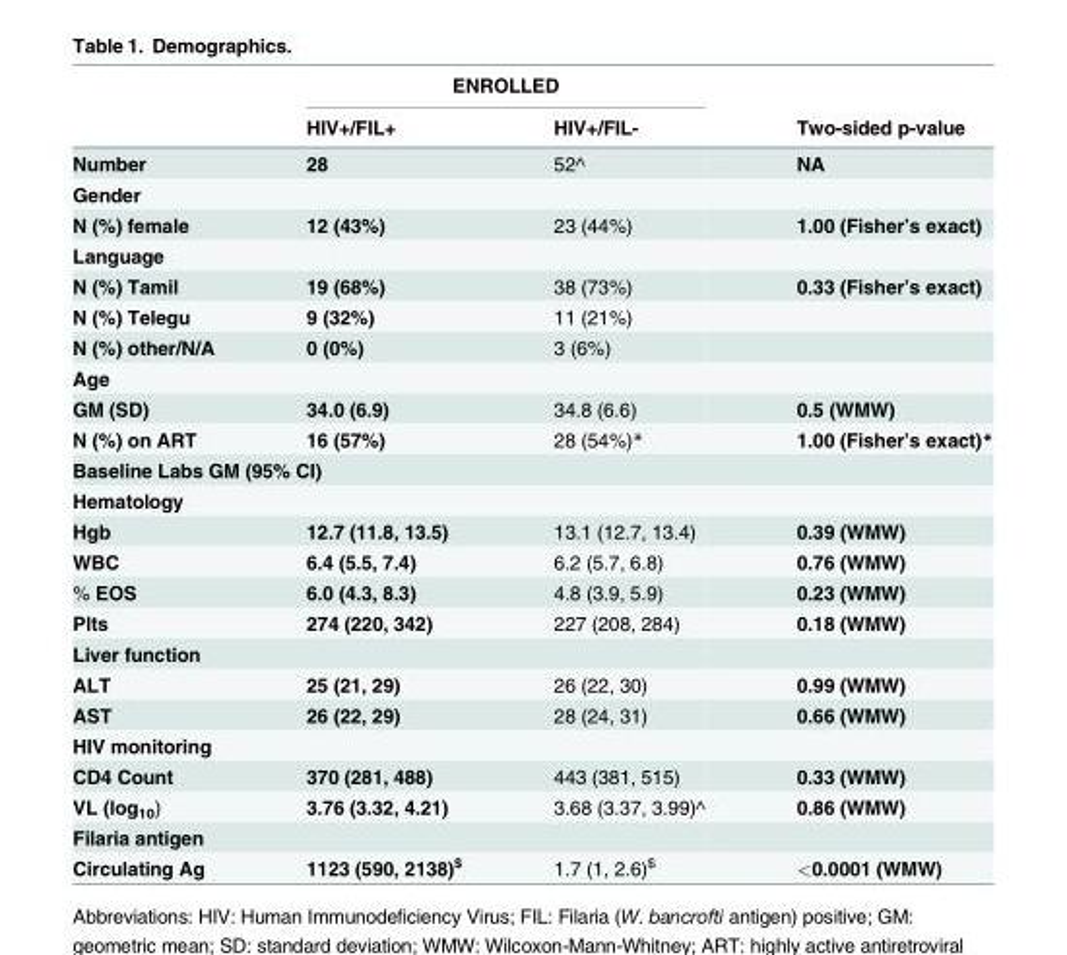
<table><thead><tr><td rowspan="2"></td><td colspan="2">ENROLLED</td><td rowspan="2">Two-sided p-value</td></tr><tr><td>HIV+/FIL+</td><td>HIV+/FIL-</td></tr></thead><tbody><tr><td>Number</td><td>28</td><td>52^</td><td>NA</td></tr><tr><td colspan="4">Gender</td></tr><tr><td>N (%) female</td><td>12 (43%)</td><td>23 (44%)</td><td>1.00 (Fisher’s exact)</td></tr><tr><td colspan="4">Language</td></tr><tr><td>N (%) Tamil</td><td>19 (68%)</td><td>38 (73%)</td><td>0.33 (Fisher’s exact)</td></tr><tr><td>N (%) Telegu</td><td>9 (32%)</td><td>11 (21%)</td><td></td></tr><tr><td>N (%) other/N/A</td><td>0 (0%)</td><td>3 (6%)</td><td></td></tr><tr><td colspan="4">Age</td></tr><tr><td>GM (SD)</td><td>34.0 (6.9)</td><td>34.8 (6.6)</td><td>0.5 (WMW)</td></tr><tr><td>N (%) on ART</td><td>16 (57%)</td><td>28 (54%)*</td><td>1.00 (Fisher’s exact)*</td></tr><tr><td colspan="4">Baseline Labs GM (95% CI)</td></tr><tr><td colspan="4">Hematology</td></tr><tr><td>Hgb</td><td>12.7 (11.8, 13.5)</td><td>13.1 (12.7, 13.4)</td><td>0.39 (WMW)</td></tr><tr><td>WBC</td><td>6.4 (5.5, 7.4)</td><td>6.2 (5.7, 6.8)</td><td>0.76 (WMW)</td></tr><tr><td>% EOS</td><td>6.0 (4.3, 8.3)</td><td>4.8 (3.9, 5.9)</td><td>0.23 (WMW)</td></tr><tr><td>Plts</td><td>274 (220, 342)</td><td>227 (208, 284)</td><td>0.18 (WMW)</td></tr><tr><td colspan="4">Liver function</td></tr><tr><td>ALT</td><td>25 (21, 29)</td><td>26 (22, 30)</td><td>0.99 (WMW)</td></tr><tr><td>AST</td><td>26 (22, 29)</td><td>28 (24, 31)</td><td>0.66 (WMW)</td></tr><tr><td colspan="4">HIV monitoring</td></tr><tr><td>CD4 Count</td><td>370 (281, 488)</td><td>443 (381, 515)</td><td>0.33 (WMW)</td></tr><tr><td>VL (log<sub>10</sub>)</td><td>3.76 (3.32, 4.21)</td><td>3.68 (3.37, 3.99)^</td><td>0.86 (WMW)</td></tr><tr><td colspan="4">Filaria antigen</td></tr><tr><td>Circulating Ag</td><td>1123 (590, 2138)<sup>$</sup></td><td>1.7 (1, 2.6)<sup>$</sup></td><td>&lt;0.0001 (WMW)</td></tr></tbody></table>